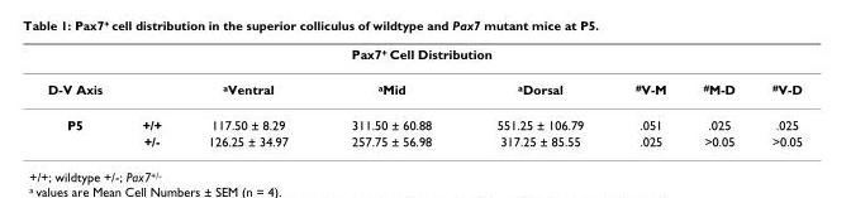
<table><thead><tr><td colspan="8">Pax7<sup>+</sup> Cell Distribution</td></tr><tr><td>D-V Axis</td><td></td><td><sup>a</sup>Ventral</td><td><sup>a</sup>Mid</td><td><sup>a</sup>Dorsal</td><td><sup>#</sup>V-M</td><td><sup>#</sup>M-D</td><td><sup>#</sup>V-D</td></tr></thead><tbody><tr><td rowspan="2">P5</td><td>+/+</td><td>117.50 ± 8.29</td><td>311.50 ± 60.88</td><td>551.25 ± 106.79</td><td>.051</td><td>.025</td><td>.025</td></tr><tr><td>+/-</td><td>126.25 ± 34.97</td><td>257.75 ± 56.98</td><td>317.25 ± 85.55</td><td>.025</td><td>&gt;0.05</td><td>&gt;0.05</td></tr></tbody></table>